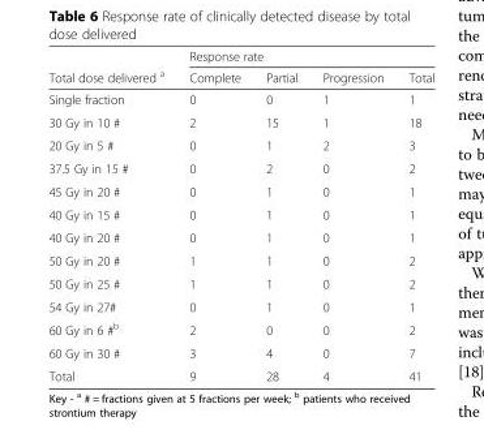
<table><thead><tr><td rowspan="2">Total dose delivered <sup>a</sup></td><td colspan="4">Response rate</td></tr><tr><td>Complete</td><td>Partial</td><td>Progression</td><td>Total</td></tr></thead><tbody><tr><td>Single fraction</td><td>0</td><td>0</td><td>1</td><td>1</td></tr><tr><td>30 Gy in 10 #</td><td>2</td><td>15</td><td>1</td><td>18</td></tr><tr><td>20 Gy in 5 #</td><td>0</td><td>1</td><td>2</td><td>3</td></tr><tr><td>37.5 Gy in 15 #</td><td>0</td><td>2</td><td>0</td><td>2</td></tr><tr><td>45 Gy in 20 #</td><td>0</td><td>1</td><td>0</td><td>1</td></tr><tr><td>40 Gy in 15 #</td><td>0</td><td>1</td><td>0</td><td>1</td></tr><tr><td>40 Gy in 20 #</td><td>0</td><td>1</td><td>0</td><td>1</td></tr><tr><td>50 Gy in 20 #</td><td>1</td><td>1</td><td>0</td><td>2</td></tr><tr><td>50 Gy in 25 #</td><td>1</td><td>1</td><td>0</td><td>2</td></tr><tr><td>54 Gy in 27#</td><td>0</td><td>1</td><td>0</td><td>1</td></tr><tr><td>60 Gy in 6 #<sup>b</sup></td><td>2</td><td>0</td><td>0</td><td>2</td></tr><tr><td>60 Gy in 30 #</td><td>3</td><td>4</td><td>0</td><td>7</td></tr><tr><td>Total</td><td>9</td><td>28</td><td>4</td><td>41</td></tr></tbody></table>